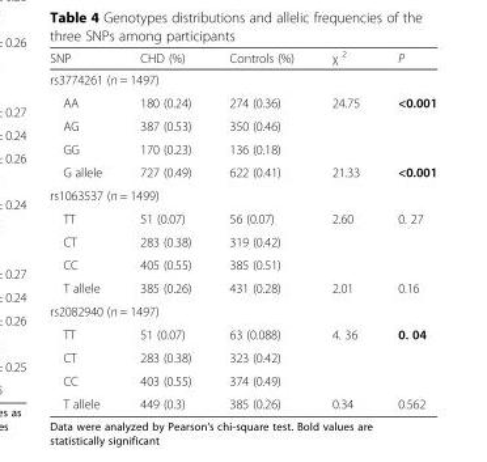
<table><thead><tr><td>SNP</td><td>CHD (%)</td><td>Controls (%)</td><td>χ <sup>2</sup></td><td>P</td></tr></thead><tbody><tr><td colspan="5">rs3774261 (n = 1497)</td></tr><tr><td>AA</td><td>180 (0.24)</td><td>274 (0.36)</td><td>24.75</td><td>&lt;0.001</td></tr><tr><td>AG</td><td>387 (0.53)</td><td>350 (0.46)</td><td></td><td></td></tr><tr><td>GG</td><td>170 (0.23)</td><td>136 (0.18)</td><td></td><td></td></tr><tr><td>G allele</td><td>727 (0.49)</td><td>622 (0.41)</td><td>21.33</td><td>&lt;0.001</td></tr><tr><td colspan="5">rs1063537 (n = 1499)</td></tr><tr><td>TT</td><td>51 (0.07)</td><td>56 (0.07)</td><td>2.60</td><td>0. 27</td></tr><tr><td>CT</td><td>283 (0.38)</td><td>319 (0.42)</td><td></td><td></td></tr><tr><td>CC</td><td>405 (0.55)</td><td>385 (0.51)</td><td></td><td></td></tr><tr><td>T allele</td><td>385 (0.26)</td><td>431 (0.28)</td><td>2.01</td><td>0.16</td></tr><tr><td colspan="5">rs2082940 (n = 1497)</td></tr><tr><td>TT</td><td>51 (0.07)</td><td>63 (0.088)</td><td>4. 36</td><td>0. 04</td></tr><tr><td>CT</td><td>283 (0.38)</td><td>323 (0.42)</td><td></td><td></td></tr><tr><td>CC</td><td>403 (0.55)</td><td>374 (0.49)</td><td></td><td></td></tr><tr><td>T allele</td><td>449 (0.3)</td><td>385 (0.26)</td><td>0.34</td><td>0.562</td></tr></tbody></table>